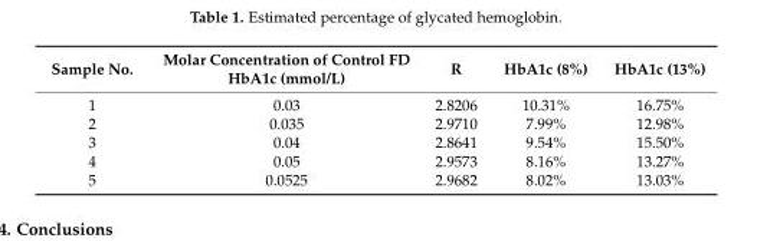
<table><thead><tr><td>Sample No.</td><td>Molar Concentration of Control FD HbA1c (mmol/L)</td><td>R</td><td>HbA1c (8%)</td><td>HbA1c (13%)</td></tr></thead><tbody><tr><td>1</td><td>0.03</td><td>2.8206</td><td>10.31%</td><td>16.75%</td></tr><tr><td>2</td><td>0.035</td><td>2.9710</td><td>7.99%</td><td>12.98%</td></tr><tr><td>3</td><td>0.04</td><td>2.8641</td><td>9.54%</td><td>15.50%</td></tr><tr><td>4</td><td>0.05</td><td>2.9573</td><td>8.16%</td><td>13.27%</td></tr><tr><td>5</td><td>0.0525</td><td>2.9682</td><td>8.02%</td><td>13.03%</td></tr></tbody></table>